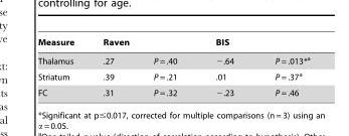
<table><thead><tr><td rowspan="2">Measure Thalamus</td><td colspan="2">Raven</td><td colspan="2">BIS</td></tr><tr><td>.27</td><td>P = .40</td><td>−.64</td><td>P = .013*a</td></tr></thead><tbody><tr><td>Striatum</td><td>.39</td><td>P = .21</td><td>.01</td><td>P = .37<sup>a</sup></td></tr><tr><td>FC</td><td>.31</td><td>P = .32</td><td>−.23</td><td>P = .46</td></tr></tbody></table>